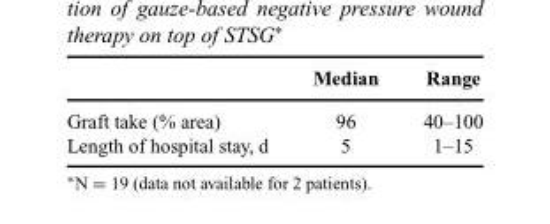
<table><thead><tr><td></td><td>Median</td><td>Range</td></tr></thead><tbody><tr><td>Graft take (% area)</td><td>96</td><td>40–100</td></tr><tr><td>Length of hospital stay, d</td><td>5</td><td>1–15</td></tr></tbody></table>